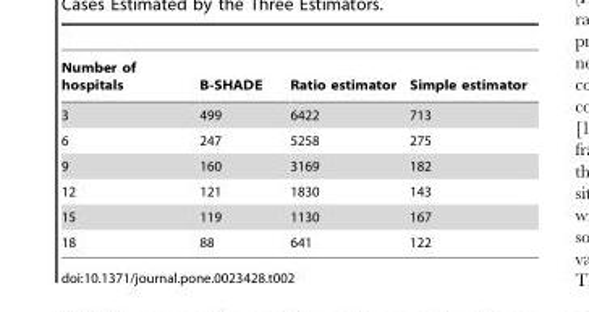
<table><thead><tr><td>Number of hospitals</td><td>B-SHADE</td><td>Ratio estimator</td><td>Simple estimator</td></tr></thead><tbody><tr><td>3</td><td>499</td><td>6422</td><td>713</td></tr><tr><td>6</td><td>247</td><td>5258</td><td>275</td></tr><tr><td>9</td><td>160</td><td>3169</td><td>182</td></tr><tr><td>12</td><td>121</td><td>1830</td><td>143</td></tr><tr><td>15</td><td>119</td><td>1130</td><td>167</td></tr><tr><td>18</td><td>88</td><td>641</td><td>122</td></tr></tbody></table>